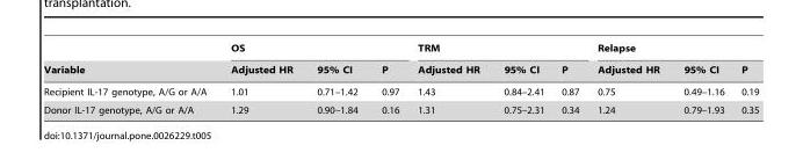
<table><thead><tr><td rowspan="2">Variable</td><td colspan="3">OS</td><td colspan="3">TRM</td><td colspan="3">Relapse</td></tr><tr><td>Adjusted HR</td><td>95% CI</td><td>P</td><td>Adjusted HR</td><td>95% CI</td><td>P</td><td>Adjusted HR</td><td>95% CI</td><td>P</td></tr></thead><tbody><tr><td>Recipient IL-17 genotype, A/G or A/A</td><td>1.01</td><td>0.71–1.42</td><td>0.97</td><td>1.43</td><td>0.84–2.41</td><td>0.87</td><td>0.75</td><td>0.49–1.16</td><td>0.19</td></tr><tr><td>Donor IL-17 genotype, A/G or A/A</td><td>1.29</td><td>0.90–1.84</td><td>0.16</td><td>1.31</td><td>0.75–2.31</td><td>0.34</td><td>1.24</td><td>0.79–1.93</td><td>0.35</td></tr></tbody></table>